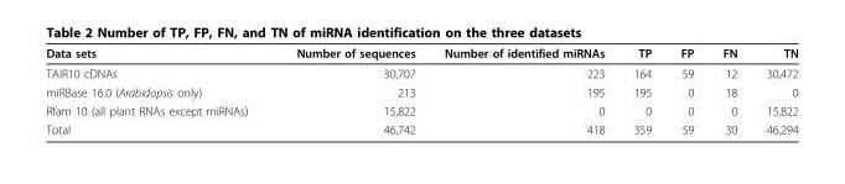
<table><thead><tr><td>Data sets</td><td>Number of sequences</td><td>Number of identified miRNAs</td><td>TP</td><td>FP</td><td>FN</td><td>TN</td></tr></thead><tbody><tr><td>TAIR10 cDNAs</td><td>30,707</td><td>223</td><td>164</td><td>59</td><td>12</td><td>30,472</td></tr><tr><td>miRBase 16.0 (Arabidopsis only)</td><td>213</td><td>195</td><td>195</td><td>0</td><td>18</td><td>0</td></tr><tr><td>Rfam 10 (all plant RNAs except miRNAs)</td><td>15,822</td><td>0</td><td>0</td><td>0</td><td>0</td><td>15,822</td></tr><tr><td>Total</td><td>46,742</td><td>418</td><td>359</td><td>59</td><td>30</td><td>46,294</td></tr></tbody></table>